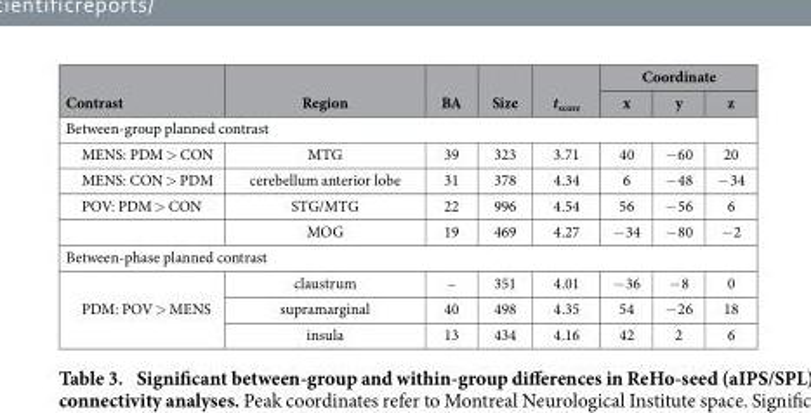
<table><thead><tr><td rowspan="2">Contrast</td><td rowspan="2">Region</td><td rowspan="2">BA</td><td rowspan="2">Size</td><td rowspan="2">t<sub>score</sub></td><td colspan="3">Coordinate</td></tr><tr><td>x</td><td>y</td><td>z</td></tr></thead><tbody><tr><td colspan="8">Between-group planned contrast</td></tr><tr><td>MENS: PDM &gt; CON</td><td>MTG</td><td>39</td><td>323</td><td>3.71</td><td>40</td><td>− 60</td><td>20</td></tr><tr><td>MENS: CON &gt; PDM</td><td>cerebellum anterior lobe</td><td>31</td><td>378</td><td>4.34</td><td>6</td><td>− 48</td><td>− 34</td></tr><tr><td rowspan="2">POV: PDM &gt; CON</td><td>STG/MTG</td><td>22</td><td>996</td><td>4.54</td><td>56</td><td>− 56</td><td>6</td></tr><tr><td>MOG</td><td>19</td><td>469</td><td>4.27</td><td>− 34</td><td>− 80</td><td>− 2</td></tr><tr><td colspan="8">Between-phase planned contrast</td></tr><tr><td rowspan="3">PDM: POV &gt; MENS</td><td>claustrum</td><td>–</td><td>351</td><td>4.01</td><td>− 36</td><td>− 8</td><td>0</td></tr><tr><td>supramarginal</td><td>40</td><td>498</td><td>4.35</td><td>54</td><td>− 26</td><td>18</td></tr><tr><td>insula</td><td>13</td><td>434</td><td>4.16</td><td>42</td><td>2</td><td>6</td></tr></tbody></table>